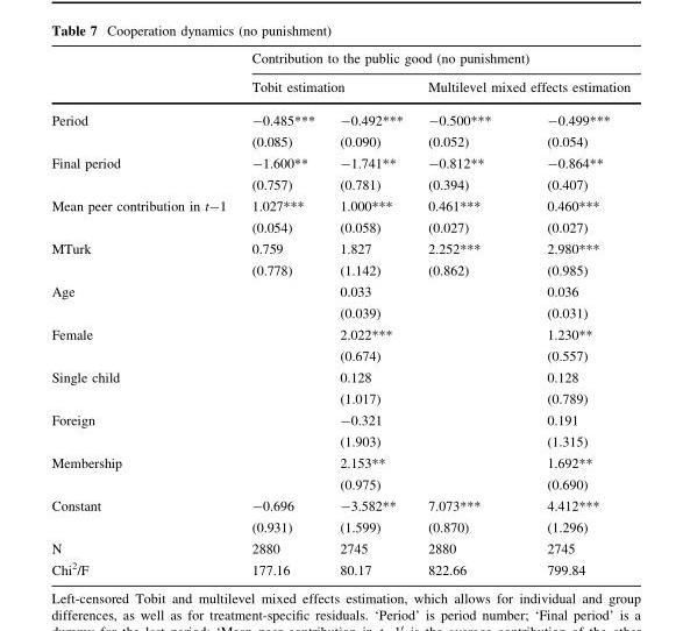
<table><thead><tr><td rowspan="3">Period</td><td colspan="4">Contribution to the public good (no punishment)</td></tr><tr><td colspan="2">Tobit estimation</td><td colspan="2">Multilevel mixed effects estimation</td></tr><tr><td>-0.485***</td><td>-0.492***</td><td>-0.500***</td><td>-0.499***</td></tr></thead><tbody><tr><td></td><td>(0.085)</td><td>(0.090)</td><td>(0.052)</td><td>(0.054)</td></tr><tr><td rowspan="2">Final period</td><td>-1.600**</td><td>-1.741**</td><td>-0.812**</td><td>-0.864**</td></tr><tr><td>(0.757)</td><td>(0.781)</td><td>(0.394)</td><td>(0.407)</td></tr><tr><td rowspan="2">Mean peer contribution in t-1</td><td>1.027***</td><td>1.000***</td><td>0.461***</td><td>0.460***</td></tr><tr><td>(0.054)</td><td>(0.058)</td><td>(0.027)</td><td>(0.027)</td></tr><tr><td rowspan="2">MTurk</td><td>0.759</td><td>1.827</td><td>2.252***</td><td>2.980***</td></tr><tr><td>(0.778)</td><td>(1.142)</td><td>(0.862)</td><td>(0.985)</td></tr><tr><td rowspan="2">Age</td><td></td><td>0.033</td><td></td><td>0.036</td></tr><tr><td></td><td>(0.039)</td><td></td><td>(0.031)</td></tr><tr><td rowspan="2">Female</td><td></td><td>2.022***</td><td></td><td>1.230**</td></tr><tr><td></td><td>(0.674)</td><td></td><td>(0.557)</td></tr><tr><td rowspan="2">Single child</td><td></td><td>0.128</td><td></td><td>0.128</td></tr><tr><td></td><td>(1.017)</td><td></td><td>(0.789)</td></tr><tr><td rowspan="2">Foreign</td><td></td><td>-0.321</td><td></td><td>0.191</td></tr><tr><td></td><td>(1.903)</td><td></td><td>(1.315)</td></tr><tr><td rowspan="2">Membership</td><td></td><td>2.153**</td><td></td><td>1.692**</td></tr><tr><td></td><td>(0.975)</td><td></td><td>(0.690)</td></tr><tr><td rowspan="2">Constant</td><td>-0.696</td><td>-3.582**</td><td>7.073***</td><td>4.412***</td></tr><tr><td>(0.931)</td><td>(1.599)</td><td>(0.870)</td><td>(1.296)</td></tr><tr><td>N</td><td>2880</td><td>2745</td><td>2880</td><td>2745</td></tr><tr><td>Chi<sup>2</sup>/F</td><td>177.16</td><td>80.17</td><td>822.66</td><td>799.84</td></tr></tbody></table>